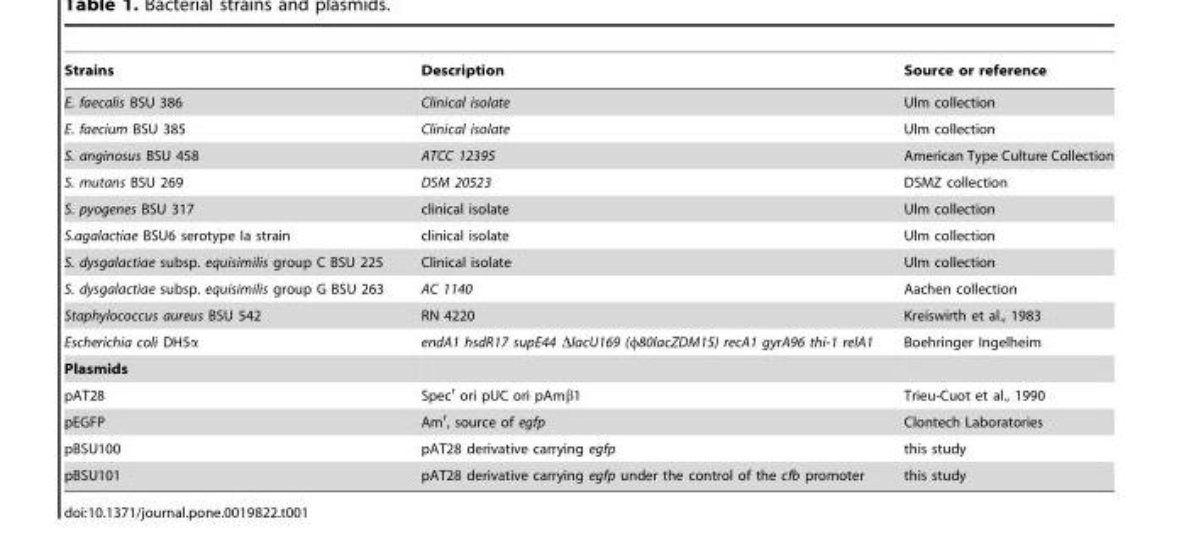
<table><thead><tr><td>Strains</td><td>Description</td><td>Source or reference</td></tr></thead><tbody><tr><td>E. faecalis BSU 386</td><td>Clinical isolate</td><td>Ulm collection</td></tr><tr><td>E. faecium BSU 385</td><td>Clinical isolate</td><td>Ulm collection</td></tr><tr><td>S. anginosus BSU 458</td><td>ATCC 12395</td><td>American Type Culture Collection</td></tr><tr><td>S. mutans BSU 269</td><td>DSM 20523</td><td>DSMZ collection</td></tr><tr><td>S. pyogenes BSU 317</td><td>clinical isolate</td><td>Ulm collection</td></tr><tr><td>S.agalactiae BSU6 serotype Ia strain</td><td>clinical isolate</td><td>Ulm collection</td></tr><tr><td>S. dysgalactiae subsp. equisimilis group C BSU 225</td><td>Clinical isolate</td><td>Ulm collection</td></tr><tr><td>S. dysgalactiae subsp. equisimilis group G BSU 263</td><td>AC 1140</td><td>Aachen collection</td></tr><tr><td>Staphylococcus aureus BSU 542</td><td>RN 4220</td><td>Kreiswirth et al., 1983</td></tr><tr><td>Escherichia coli DH5α</td><td>endA1 hsdR17 supE44 ΔlacU169 (φ80lacZDM15) recA1 gyrA96 thi-1 relA1</td><td>Boehringer Ingelheim</td></tr><tr><td colspan="3">Plasmids</td></tr><tr><td>pAT28</td><td>Spec<sup>r</sup> ori pUC ori pAmβ1</td><td>Trieu-Cuot et al., 1990</td></tr><tr><td>pEGFP</td><td>Am<sup>r</sup>, source of egfp</td><td>Clontech Laboratories</td></tr><tr><td>pBSU100</td><td>pAT28 derivative carrying egfp</td><td>this study</td></tr><tr><td>pBSU101</td><td>pAT28 derivative carrying egfp under the control of the cfb promoter</td><td>this study</td></tr></tbody></table>